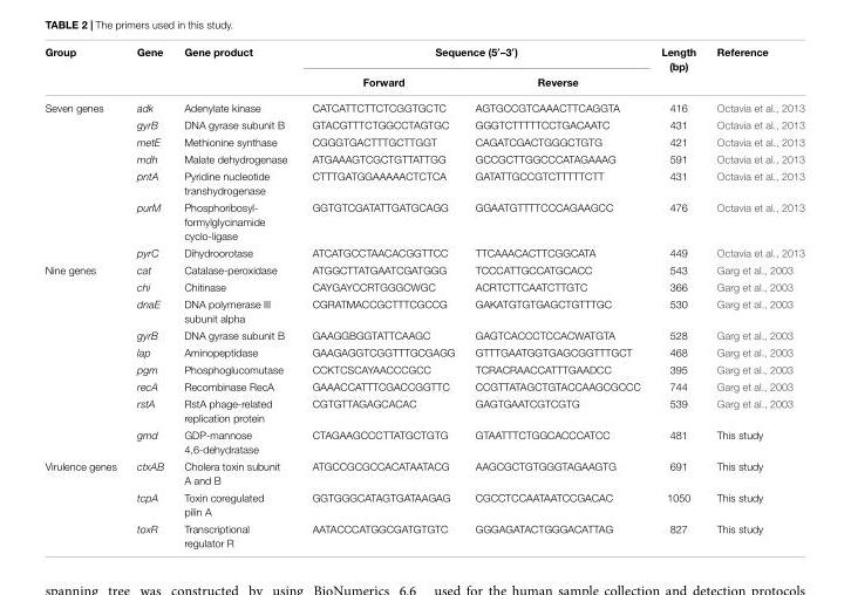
<table><thead><tr><td rowspan="2">Group</td><td rowspan="2">Gene</td><td rowspan="2">Gene product</td><td colspan="2">Sequence (5′–3′)</td><td rowspan="2">Length (bp)</td><td rowspan="2">Reference</td></tr><tr><td>Forward</td><td>Reverse</td></tr></thead><tbody><tr><td rowspan="7">Seven genes</td><td>adk</td><td>Adenylate kinase</td><td>CATCATTCTTCTCGGTGCTC</td><td>AGTGCCGTCAAACTTCAGGTA</td><td>416</td><td>Octavia et al., 2013</td></tr><tr><td>gyrB</td><td>DNA gyrase subunit B</td><td>GTACGTTTCTGGCCTAGTGC</td><td>GGGTCTTTTTCCTGACAATC</td><td>431</td><td>Octavia et al., 2013</td></tr><tr><td>metE</td><td>Methionine synthase</td><td>CGGGTGACTTTGCTTGGT</td><td>CAGATCGACTGGGCTGTG</td><td>421</td><td>Octavia et al., 2013</td></tr><tr><td>mdh</td><td>Malate dehydrogenase</td><td>ATGAAAGTCGCTGTTATTGG</td><td>GCCGCTTGGCCCATAGAAAG</td><td>591</td><td>Octavia et al., 2013</td></tr><tr><td>pntA</td><td>Pyridine nucleotide transhydrogenase</td><td>CTTTGATGGAAAAACTCTCA</td><td>GATATTGCCGTCTTTTTCTT</td><td>431</td><td>Octavia et al., 2013</td></tr><tr><td>purM</td><td>Phosphoribosyl- formylglycinamide cyclo-ligase</td><td>GGTGTCGATATTGATGCAGG</td><td>GGAATGTTTTCCCAGAAGCC</td><td>476</td><td>Octavia et al., 2013</td></tr><tr><td>pyrC</td><td>Dihydroorotase</td><td>ATCATGCCTAACACGGTTCC</td><td>TTCAAACACTTCGGCATA</td><td>449</td><td>Octavia et al., 2013</td></tr><tr><td rowspan="9">Nine genes</td><td>cat</td><td>Catalase-peroxidase</td><td>ATGGCTTATGAATCGATGGG</td><td>TCCCATTGCCATGCACC</td><td>543</td><td>Garg et al., 2003</td></tr><tr><td>chi</td><td>Chitinase</td><td>CAYGAYCCRTGGGCWGC</td><td>ACRTCTTCAATCTTGTC</td><td>366</td><td>Garg et al., 2003</td></tr><tr><td>dnaE</td><td>DNA polymerase III subunit alpha</td><td>CGRATMACCGCTTTCGCCG</td><td>GAKATGTGTGAGCTGTTTGC</td><td>530</td><td>Garg et al., 2003</td></tr><tr><td>gyrB</td><td>DNA gyrase subunit B</td><td>GAAGGBGGTATTCAAGC</td><td>GAGTCACCCTCCACWATGTA</td><td>528</td><td>Garg et al., 2003</td></tr><tr><td>lap</td><td>Aminopeptidase</td><td>GAAGAGGTCGGTTTGCGAGG</td><td>GTTTGAATGGTGAGCGGTTTGCT</td><td>468</td><td>Garg et al., 2003</td></tr><tr><td>pgm</td><td>Phosphoglucomutase</td><td>CCKTCSCAYAACCCGCC</td><td>TCRACRAACCATTTGAADCC</td><td>395</td><td>Garg et al., 2003</td></tr><tr><td>recA</td><td>Recombinase RecA</td><td>GAAACCATTTCGACCGGTTC</td><td>CCGTTATAGCTGTACCAAGCGCCC</td><td>744</td><td>Garg et al., 2003</td></tr><tr><td>rstA</td><td>RstA phage-related replication protein</td><td>CGTGTTAGAGCACAC</td><td>GAGTGAATCGTCGTG</td><td>539</td><td>Garg et al., 2003</td></tr><tr><td>gmd</td><td>GDP-mannose 4,6-dehydratase</td><td>CTAGAAGCCCTTATGCTGTG</td><td>GTAATTTCTGGCACCCATCC</td><td>481</td><td>This study</td></tr><tr><td rowspan="3">Virulence genes</td><td>ctxAB</td><td>Cholera toxin subunit A and B</td><td>ATGCCGCGCCACATAATACG</td><td>AAGCGCTGTGGGTAGAAGTG</td><td>691</td><td>This study</td></tr><tr><td>tcpA</td><td>Toxin coregulated pilin A</td><td>GGTGGGCATAGTGATAAGAG</td><td>CGCCTCCAATAATCCGACAC</td><td>1050</td><td>This study</td></tr><tr><td>toxR</td><td>Transcriptional regulator R</td><td>AATACCCATGGCGATGTGTC</td><td>GGGAGATACTGGGACATTAG</td><td>827</td><td>This study</td></tr></tbody></table>